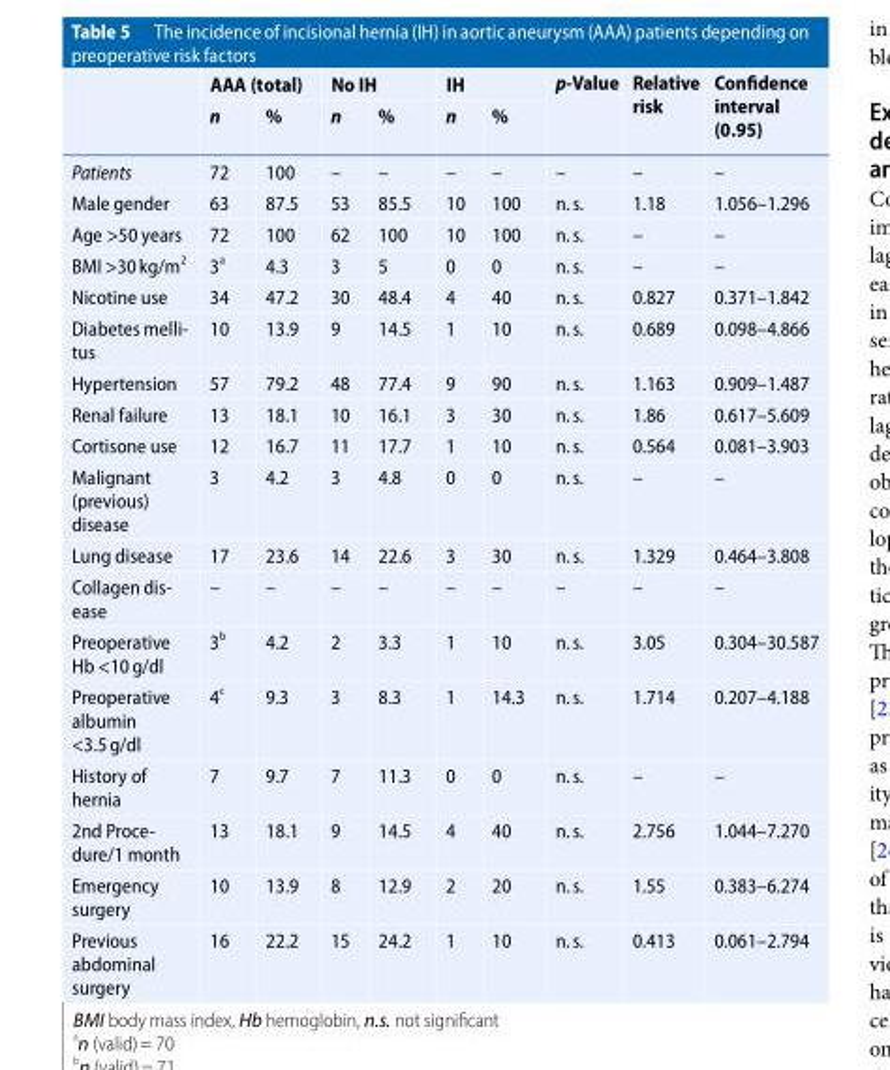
<table><thead><tr><td rowspan="2"></td><td colspan="2">AAA (total)</td><td colspan="2">No IH</td><td colspan="2">IH</td><td rowspan="2">p-Value</td><td rowspan="2">Relative risk</td><td rowspan="2">Confidence interval (0.95)</td></tr><tr><td>n</td><td>%</td><td>n</td><td>%</td><td>n</td><td>%</td></tr></thead><tbody><tr><td>Patients</td><td>72</td><td>100</td><td>–</td><td>–</td><td>–</td><td>–</td><td>–</td><td>–</td><td>–</td></tr><tr><td>Male gender</td><td>63</td><td>87.5</td><td>53</td><td>85.5</td><td>10</td><td>100</td><td>n.s.</td><td>1.18</td><td>1.056–1.296</td></tr><tr><td>Age &gt;50 years</td><td>72</td><td>100</td><td>62</td><td>100</td><td>10</td><td>100</td><td>n.s.</td><td>–</td><td>–</td></tr><tr><td>BMI &gt;30kg/m<sup>2</sup></td><td>3<sup>a</sup></td><td>4.3</td><td>3</td><td>5</td><td>0</td><td>0</td><td>n.s.</td><td>–</td><td>–</td></tr><tr><td>Nicotine use</td><td>34</td><td>47.2</td><td>30</td><td>48.4</td><td>4</td><td>40</td><td>n.s.</td><td>0.827</td><td>0.371–1.842</td></tr><tr><td>Diabetes melli- tus</td><td>10</td><td>13.9</td><td>9</td><td>14.5</td><td>1</td><td>10</td><td>n.s.</td><td>0.689</td><td>0.098–4.866</td></tr><tr><td>Hypertension</td><td>57</td><td>79.2</td><td>48</td><td>77.4</td><td>9</td><td>90</td><td>n.s.</td><td>1.163</td><td>0.909–1.487</td></tr><tr><td>Renal failure</td><td>13</td><td>18.1</td><td>10</td><td>16.1</td><td>3</td><td>30</td><td>n.s.</td><td>1.86</td><td>0.617–5.609</td></tr><tr><td>Cortisone use</td><td>12</td><td>16.7</td><td>11</td><td>17.7</td><td>1</td><td>10</td><td>n.s.</td><td>0.564</td><td>0.081–3.903</td></tr><tr><td>Malignant (previous) disease</td><td>3</td><td>4.2</td><td>3</td><td>4.8</td><td>0</td><td>0</td><td>n.s.</td><td>–</td><td>–</td></tr><tr><td>Lung disease</td><td>17</td><td>23.6</td><td>14</td><td>22.6</td><td>3</td><td>30</td><td>n.s.</td><td>1.329</td><td>0.464–3.808</td></tr><tr><td>Collagen dis- ease</td><td>–</td><td>–</td><td>–</td><td>–</td><td>–</td><td>–</td><td>–</td><td>–</td><td>–</td></tr><tr><td>Preoperative Hb &lt;10g/dl</td><td>3 <sup>b</sup></td><td>4.2</td><td>2</td><td>3.3</td><td>1</td><td>10</td><td>n.s.</td><td>3.05</td><td>0.304–30.587</td></tr><tr><td>Preoperative albumin &lt;3.5g/dl</td><td>4 <sup>c</sup></td><td>9.3</td><td>3</td><td>8.3</td><td>1</td><td>14.3</td><td>n.s.</td><td>1.714</td><td>0.207–4.188</td></tr><tr><td>History of hernia</td><td>7</td><td>9.7</td><td>7</td><td>11.3</td><td>0</td><td>0</td><td>n.s.</td><td>–</td><td>–</td></tr><tr><td>2nd Proce- dure/1 month</td><td>13</td><td>18.1</td><td>9</td><td>14.5</td><td>4</td><td>40</td><td>n.s.</td><td>2.756</td><td>1.044–7.270</td></tr><tr><td>Emergency surgery</td><td>10</td><td>13.9</td><td>8</td><td>12.9</td><td>2</td><td>20</td><td>n.s.</td><td>1.55</td><td>0.383–6.274</td></tr><tr><td>Previous abdominal surgery</td><td>16</td><td>22.2</td><td>15</td><td>24.2</td><td>1</td><td>10</td><td>n.s.</td><td>0.413</td><td>0.061–2.794</td></tr></tbody></table>